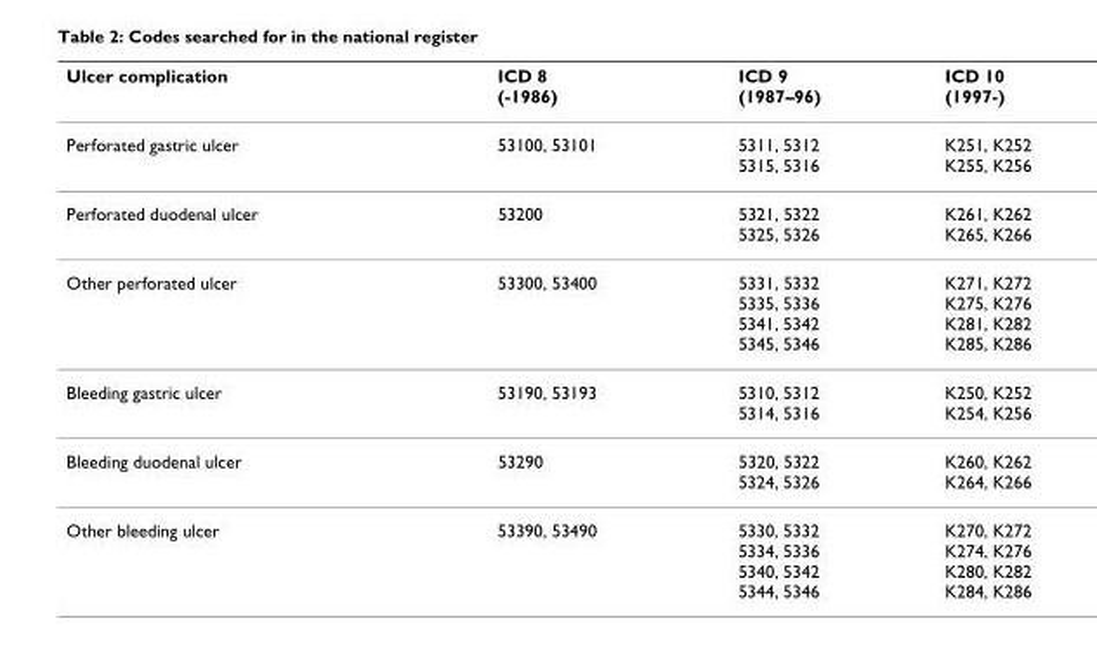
<table><thead><tr><td>Ulcer complication</td><td>ICD 8 (-1986)</td><td>ICD 9 (1987–96)</td><td>ICD 10 (1997-)</td></tr></thead><tbody><tr><td>Perforated gastric ulcer</td><td>53100, 53101</td><td>5311, 5312 5315, 5316</td><td>K251, K252 K255, K256</td></tr><tr><td>Perforated duodenal ulcer</td><td>53200</td><td>5321, 5322 5325, 5326</td><td>K261, K262 K265, K266</td></tr><tr><td>Other perforated ulcer</td><td>53300, 53400</td><td>5331, 5332 5335, 5336 5341, 5342 5345, 5346</td><td>K271, K272 K275, K276 K281, K282 K285, K286</td></tr><tr><td>Bleeding gastric ulcer</td><td>53190, 53193</td><td>5310, 5312 5314, 5316</td><td>K250, K252 K254, K256</td></tr><tr><td>Bleeding duodenal ulcer</td><td>53290</td><td>5320, 5322 5324, 5326</td><td>K260, K262 K264, K266</td></tr><tr><td>Other bleeding ulcer</td><td>53390, 53490</td><td>5330, 5332 5334, 5336 5340, 5342 5344, 5346</td><td>K270, K272 K274, K276 K280, K282 K284, K286</td></tr></tbody></table>